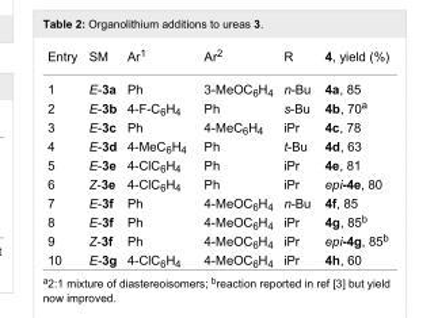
<table><tbody><tr><td>Entry</td><td>SM</td><td>Ar<sup>1</sup></td><td>Ar<sup>2</sup></td><td>R</td><td>4, yield (%)</td></tr><tr><td>1</td><td>E-3a</td><td>Ph</td><td>3-MeOC<sub>6</sub>H<sub>4</sub></td><td>n-Bu</td><td>4a, 85</td></tr><tr><td>2</td><td>E-3b</td><td>4-F-C<sub>6</sub>H<sub>4</sub></td><td>Ph</td><td>s-Bu</td><td>4b, 70<sup>a</sup></td></tr><tr><td>3</td><td>E-3c</td><td>Ph</td><td>4-MeC<sub>6</sub>H<sub>4</sub></td><td>iPr</td><td>4c, 78</td></tr><tr><td>4</td><td>E-3d</td><td>4-MeC<sub>6</sub>H<sub>4</sub></td><td>Ph</td><td>t-Bu</td><td>4d, 63</td></tr><tr><td>5</td><td>E-3e</td><td>4-ClC<sub>6</sub>H<sub>4</sub></td><td>Ph</td><td>iPr</td><td>4e, 81</td></tr><tr><td>6</td><td>Z-3e</td><td>4-ClC<sub>6</sub>H<sub>4</sub></td><td>Ph</td><td>iPr</td><td>epi-4e, 80</td></tr><tr><td>7</td><td>E-3f</td><td>Ph</td><td>4-MeOC<sub>6</sub>H<sub>4</sub></td><td>n-Bu</td><td>4f, 85</td></tr><tr><td>8</td><td>E-3f</td><td>Ph</td><td>4-MeOC<sub>6</sub>H<sub>4</sub></td><td>iPr</td><td>4g, 85<sup>b</sup></td></tr><tr><td>9</td><td>Z-3f</td><td>Ph</td><td>4-MeOC<sub>6</sub>H<sub>4</sub></td><td>iPr</td><td>epi-4g, 85<sup>b</sup></td></tr><tr><td>10</td><td>E-3g</td><td>4-ClC<sub>6</sub>H<sub>4</sub></td><td>4-MeOC<sub>6</sub>H<sub>4</sub></td><td>iPr</td><td>4h, 60</td></tr></tbody></table>